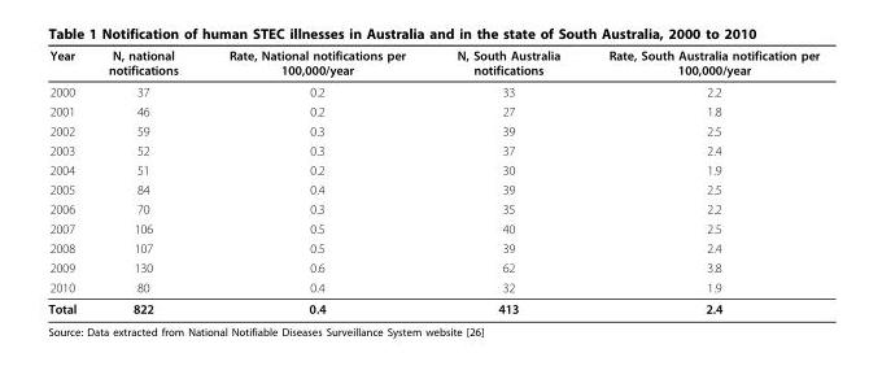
<table><thead><tr><td>Year</td><td>N, national notifications</td><td>Rate, National notifications per 100,000/year</td><td>N, South Australia notifications</td><td>Rate, South Australia notification per 100,000/year</td></tr></thead><tbody><tr><td>2000</td><td>37</td><td>0.2</td><td>33</td><td>2.2</td></tr><tr><td>2001</td><td>46</td><td>0.2</td><td>27</td><td>1.8</td></tr><tr><td>2002</td><td>59</td><td>0.3</td><td>39</td><td>2.5</td></tr><tr><td>2003</td><td>52</td><td>0.3</td><td>37</td><td>2.4</td></tr><tr><td>2004</td><td>51</td><td>0.2</td><td>30</td><td>1.9</td></tr><tr><td>2005</td><td>84</td><td>0.4</td><td>39</td><td>2.5</td></tr><tr><td>2006</td><td>70</td><td>0.3</td><td>35</td><td>2.2</td></tr><tr><td>2007</td><td>106</td><td>0.5</td><td>40</td><td>2.5</td></tr><tr><td>2008</td><td>107</td><td>0.5</td><td>39</td><td>2.4</td></tr><tr><td>2009</td><td>130</td><td>0.6</td><td>62</td><td>3.8</td></tr><tr><td>2010</td><td>80</td><td>0.4</td><td>32</td><td>1.9</td></tr><tr><td>Total</td><td>822</td><td>0.4</td><td>413</td><td>2.4</td></tr></tbody></table>